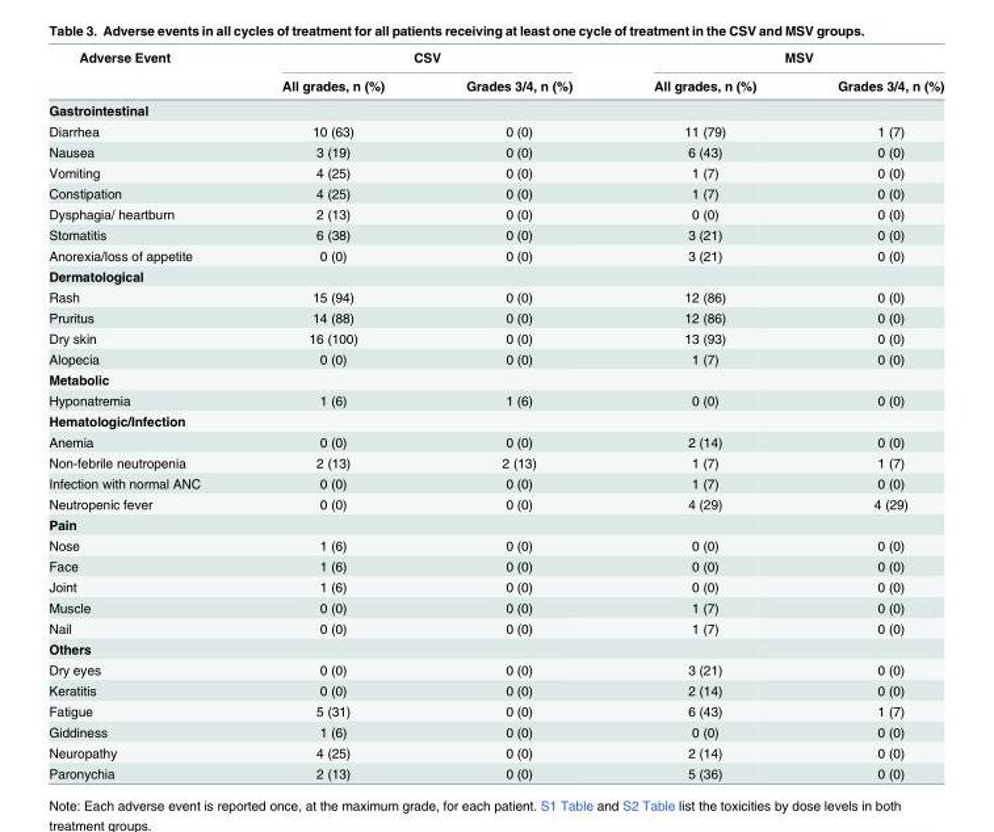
<table><thead><tr><td rowspan="2">Adverse Event</td><td colspan="2">CSV</td><td colspan="2">MSV</td></tr><tr><td>All grades, n (%)</td><td>Grades 3/4, n (%)</td><td>All grades, n (%)</td><td>Grades 3/4, n (%)</td></tr></thead><tbody><tr><td colspan="5">Gastrointestinal</td></tr><tr><td>Diarrhea</td><td>10 (63)</td><td>0 (0)</td><td>11 (79)</td><td>1 (7)</td></tr><tr><td>Nausea</td><td>3 (19)</td><td>0 (0)</td><td>6 (43)</td><td>0 (0)</td></tr><tr><td>Vomiting</td><td>4 (25)</td><td>0 (0)</td><td>1 (7)</td><td>0 (0)</td></tr><tr><td>Constipation</td><td>4 (25)</td><td>0 (0)</td><td>1 (7)</td><td>0 (0)</td></tr><tr><td>Dysphagia/ heartburn</td><td>2 (13)</td><td>0 (0)</td><td>0 (0)</td><td>0 (0)</td></tr><tr><td>Stomatitis</td><td>6 (38)</td><td>0 (0)</td><td>3 (21)</td><td>0 (0)</td></tr><tr><td>Anorexia/loss of appetite</td><td>0 (0)</td><td>0 (0)</td><td>3 (21)</td><td>0 (0)</td></tr><tr><td colspan="5">Dermatological</td></tr><tr><td>Rash</td><td>15 (94)</td><td>0 (0)</td><td>12 (86)</td><td>0 (0)</td></tr><tr><td>Pruritus</td><td>14 (88)</td><td>0 (0)</td><td>12 (86)</td><td>0 (0)</td></tr><tr><td>Dry skin</td><td>16 (100)</td><td>0 (0)</td><td>13 (93)</td><td>0 (0)</td></tr><tr><td>Alopecia</td><td>0 (0)</td><td>0 (0)</td><td>1 (7)</td><td>0 (0)</td></tr><tr><td colspan="5">Metabolic</td></tr><tr><td>Hyponatremia</td><td>1 (6)</td><td>1 (6)</td><td>0 (0)</td><td>0 (0)</td></tr><tr><td colspan="5">Hematologic/Infection</td></tr><tr><td>Anemia</td><td>0 (0)</td><td>0 (0)</td><td>2 (14)</td><td>0 (0)</td></tr><tr><td>Non-febrile neutropenia</td><td>2 (13)</td><td>2 (13)</td><td>1 (7)</td><td>1 (7)</td></tr><tr><td>Infection with normal ANC</td><td>0 (0)</td><td>0 (0)</td><td>1 (7)</td><td>0 (0)</td></tr><tr><td>Neutropenic fever</td><td>0 (0)</td><td>0 (0)</td><td>4 (29)</td><td>4 (29)</td></tr><tr><td colspan="5">Pain</td></tr><tr><td>Nose</td><td>1 (6)</td><td>0 (0)</td><td>0 (0)</td><td>0 (0)</td></tr><tr><td>Face</td><td>1 (6)</td><td>0 (0)</td><td>0 (0)</td><td>0 (0)</td></tr><tr><td>Joint</td><td>1 (6)</td><td>0 (0)</td><td>0 (0)</td><td>0 (0)</td></tr><tr><td>Muscle</td><td>0 (0)</td><td>0 (0)</td><td>1 (7)</td><td>0 (0)</td></tr><tr><td>Nail</td><td>0 (0)</td><td>0 (0)</td><td>1 (7)</td><td>0 (0)</td></tr><tr><td colspan="5">Others</td></tr><tr><td>Dry eyes</td><td>0 (0)</td><td>0 (0)</td><td>3 (21)</td><td>0 (0)</td></tr><tr><td>Keratitis</td><td>0 (0)</td><td>0 (0)</td><td>2 (14)</td><td>0 (0)</td></tr><tr><td>Fatigue</td><td>5 (31)</td><td>0 (0)</td><td>6 (43)</td><td>1 (7)</td></tr><tr><td>Giddiness</td><td>1 (6)</td><td>0 (0)</td><td>0 (0)</td><td>0 (0)</td></tr><tr><td>Neuropathy</td><td>4 (25)</td><td>0 (0)</td><td>2 (14)</td><td>0 (0)</td></tr><tr><td>Paronychia</td><td>2 (13)</td><td>0 (0)</td><td>5 (36)</td><td>0 (0)</td></tr></tbody></table>